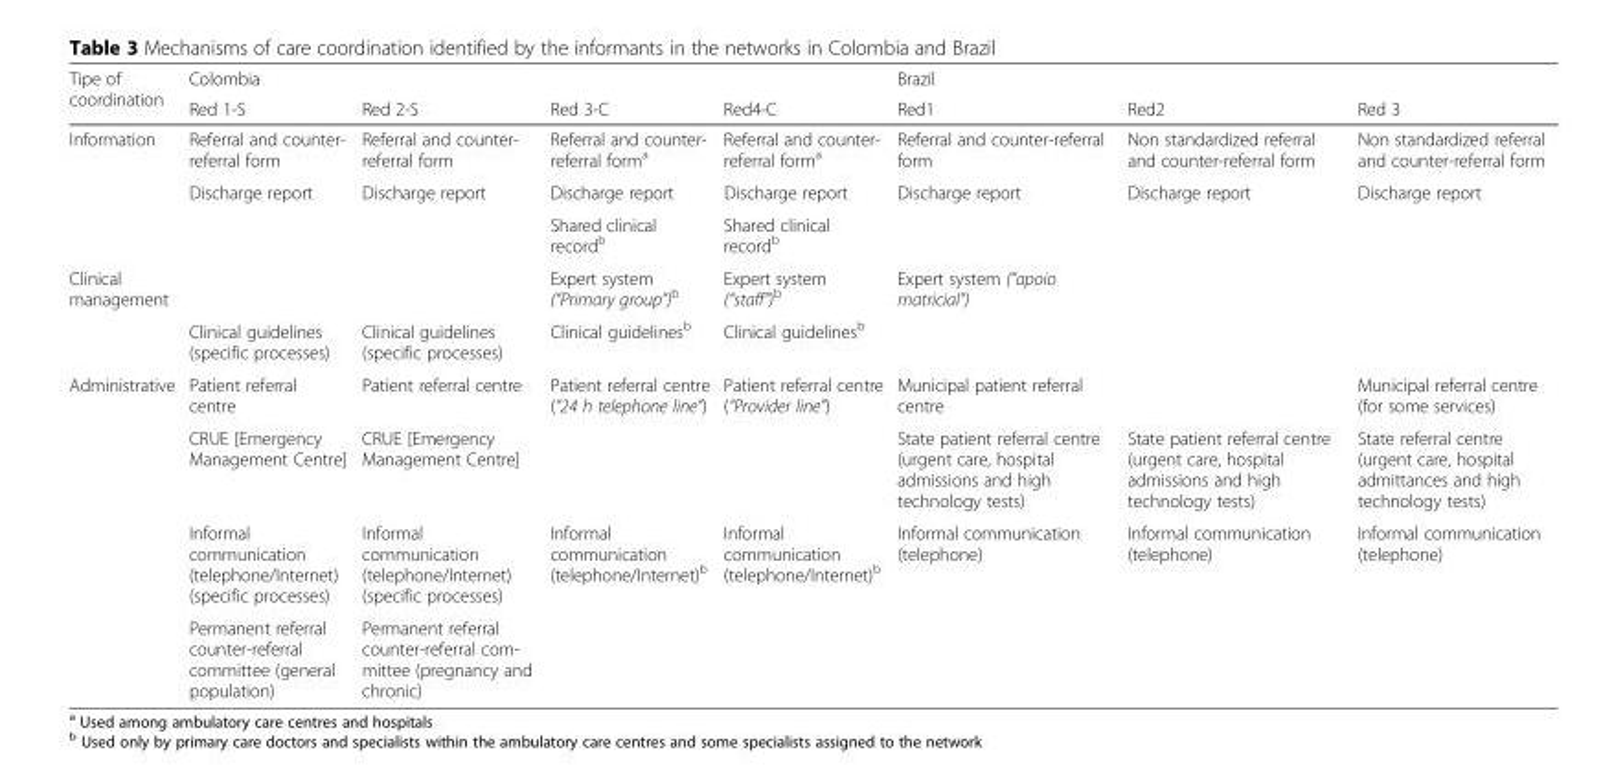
<table><thead><tr><td rowspan="2">Tipe of coordination</td><td colspan="4">Colombia</td><td colspan="3">Brazil</td></tr><tr><td>Red 1-S</td><td>Red 2-S</td><td>Red 3-C</td><td>Red4-C</td><td>Red1</td><td>Red2</td><td>Red 3</td></tr></thead><tbody><tr><td rowspan="3">Information</td><td>Referral and counter- referral form</td><td>Referral and counter- referral form</td><td>Referral and counter- referral form<sup>a</sup></td><td>Referral and counter- referral form<sup>a</sup></td><td>Referral and counter-referral form</td><td>Non standardized referral and counter-referral form</td><td>Non standardized referral and counter-referral form</td></tr><tr><td>Discharge report</td><td>Discharge report</td><td>Discharge report</td><td>Discharge report</td><td>Discharge report</td><td>Discharge report</td><td>Discharge report</td></tr><tr><td></td><td></td><td>Shared clinical record<sup>b</sup></td><td>Shared clinical record<sup>b</sup></td><td></td><td></td><td></td></tr><tr><td rowspan="2">Clinical management</td><td></td><td></td><td>Expert system (“Primary group”)<sup>b</sup></td><td>Expert system (“staff”)<sup>b</sup></td><td>Expert system (“apoio matricial”)</td><td></td><td></td></tr><tr><td>Clinical guidelines (specific processes)</td><td>Clinical guidelines (specific processes)</td><td>Clinical guidelines<sup>b</sup></td><td>Clinical guidelines<sup>b</sup></td><td></td><td></td><td></td></tr><tr><td rowspan="4">Administrative</td><td>Patient referral centre</td><td>Patient referral centre</td><td>Patient referral centre (“24 h telephone line”)</td><td>Patient referral centre (“Provider line”)</td><td>Municipal patient referral centre</td><td></td><td>Municipal referral centre (for some services)</td></tr><tr><td>CRUE [Emergency Management Centre]</td><td>CRUE [Emergency Management Centre]</td><td></td><td></td><td>State patient referral centre (urgent care, hospital admissions and high technology tests)</td><td>State patient referral centre (urgent care, hospital admissions and high technology tests)</td><td>State referral centre (urgent care, hospital admittances and high technology tests)</td></tr><tr><td>Informal communication (telephone/Internet) (specific processes)</td><td>Informal communication (telephone/Internet) (specific processes)</td><td>Informal communication (telephone/Internet)<sup>b</sup></td><td>Informal communication (telephone/Internet)<sup>b</sup></td><td>Informal communication (telephone)</td><td>Informal communication (telephone)</td><td>Informal communication (telephone)</td></tr><tr><td>Permanent referral counter-referral committee (general population)</td><td>Permanent referral counter-referral com- mittee (pregnancy and chronic)</td><td></td><td></td><td></td><td></td><td></td></tr></tbody></table>